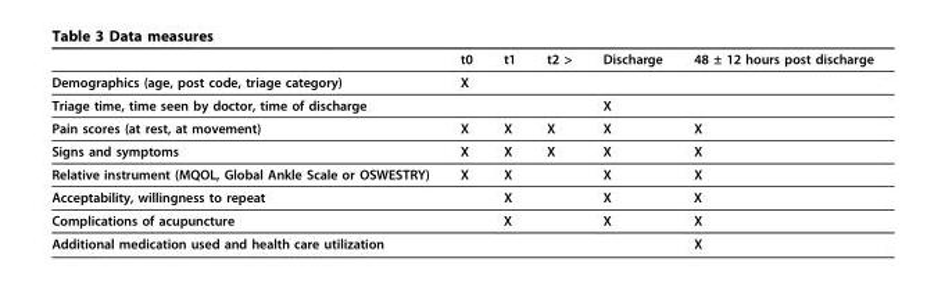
<table><thead><tr><td></td><td>t0</td><td>t1</td><td>t2 &gt;</td><td>Discharge</td><td>48 ± 12 hours post discharge</td></tr></thead><tbody><tr><td>Demographics (age, post code, triage category)</td><td>X</td><td></td><td></td><td></td><td></td></tr><tr><td>Triage time, time seen by doctor, time of discharge</td><td></td><td></td><td></td><td>X</td><td></td></tr><tr><td>Pain scores (at rest, at movement)</td><td>X</td><td>X</td><td>X</td><td>X</td><td>X</td></tr><tr><td>Signs and symptoms</td><td>X</td><td>X</td><td>X</td><td>X</td><td>X</td></tr><tr><td>Relative instrument (MQOL, Global Ankle Scale or OSWESTRY)</td><td>X</td><td>X</td><td></td><td>X</td><td>X</td></tr><tr><td>Acceptability, willingness to repeat</td><td></td><td>X</td><td></td><td>X</td><td>X</td></tr><tr><td>Complications of acupuncture</td><td></td><td>X</td><td></td><td>X</td><td>X</td></tr><tr><td>Additional medication used and health care utilization</td><td></td><td></td><td></td><td></td><td>X</td></tr></tbody></table>